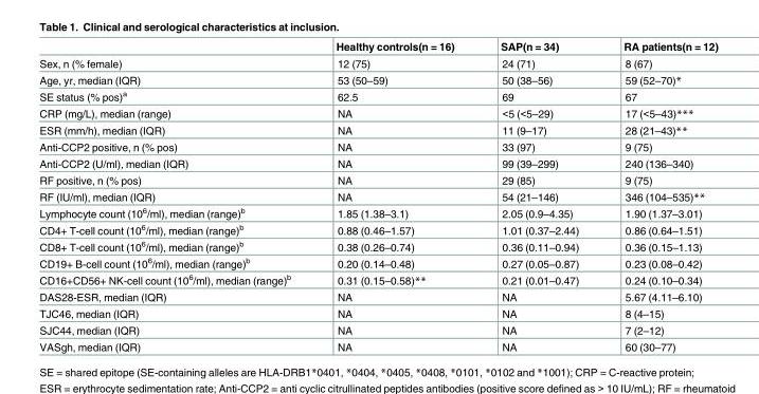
<table><thead><tr><td></td><td>Healthy controls(n = 16)</td><td>SAP(n = 34)</td><td>RA patients(n = 12)</td></tr></thead><tbody><tr><td>Sex, n (% female)</td><td>12 (75)</td><td>24 (71)</td><td>8 (67)</td></tr><tr><td>Age, yr, median (IQR)</td><td>53 (50–59)</td><td>50 (38–56)</td><td>59 (52–70)*</td></tr><tr><td>SE status (% pos)<sup>a</sup></td><td>62.5</td><td>69</td><td>67</td></tr><tr><td>CRP (mg/L), median (range)</td><td>NA</td><td>&lt;5 (&lt;5–29)</td><td>17 (&lt;5–43)***</td></tr><tr><td>ESR (mm/h), median (IQR)</td><td>NA</td><td>11 (9–17)</td><td>28 (21–43)**</td></tr><tr><td>Anti-CCP2 positive, n (% pos)</td><td>NA</td><td>33 (97)</td><td>9 (75)</td></tr><tr><td>Anti-CCP2 (U/ml), median (IQR)</td><td>NA</td><td>99 (39–299)</td><td>240 (136–340)</td></tr><tr><td>RF positive, n (% pos)</td><td>NA</td><td>29 (85)</td><td>9 (75)</td></tr><tr><td>RF (IU/ml), median (IQR)</td><td>NA</td><td>54 (21–146)</td><td>346 (104–535)**</td></tr><tr><td>Lymphocyte count (10<sup>6</sup>/ml), median (range)<sup>b</sup></td><td>1.85 (1.38–3.1)</td><td>2.05 (0.9–4.35)</td><td>1.90 (1.37–3.01)</td></tr><tr><td>CD4+ T-cell count (10<sup>6</sup>/ml), median (range)<sup>b</sup></td><td>0.88 (0.46–1.57)</td><td>1.01 (0.37–2.44)</td><td>0.86 (0.64–1.51)</td></tr><tr><td>CD8+ T-cell count (10<sup>6</sup>/ml), median (range)<sup>b</sup></td><td>0.38 (0.26–0.74)</td><td>0.36 (0.11–0.94)</td><td>0.36 (0.15–1.13)</td></tr><tr><td>CD19+ B-cell count (10<sup>6</sup>/ml), median (range)<sup>b</sup></td><td>0.20 (0.14–0.48)</td><td>0.27 (0.05–0.87)</td><td>0.23 (0.08–0.42)</td></tr><tr><td>CD16+CD56+ NK-cell count (10<sup>6</sup>/ml), median (range)<sup>b</sup></td><td>0.31 (0.15–0.58)**</td><td>0.21 (0.01–0.47)</td><td>0.24 (0.10–0.34)</td></tr><tr><td>DAS28-ESR, median (IQR)</td><td>NA</td><td>NA</td><td>5.67 (4.11–6.10)</td></tr><tr><td>TJC46, median (IQR)</td><td>NA</td><td>NA</td><td>8 (4–15)</td></tr><tr><td>SJC44, median (IQR)</td><td>NA</td><td>NA</td><td>7 (2–12)</td></tr><tr><td>VASgh, median (IQR)</td><td>NA</td><td>NA</td><td>60 (30–77)</td></tr></tbody></table>